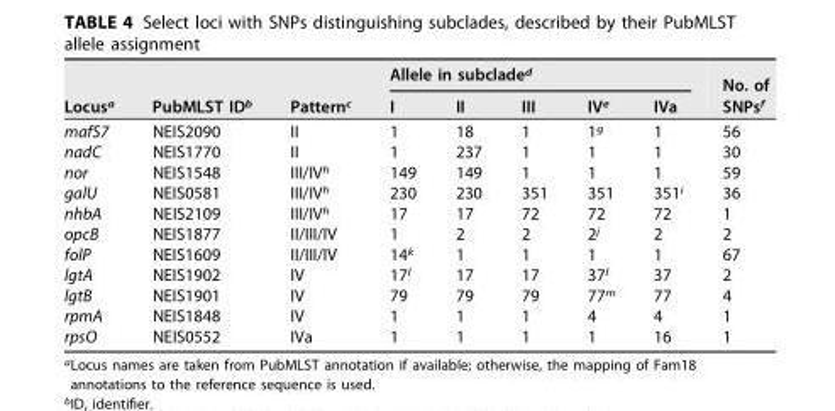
<table><thead><tr><td rowspan="2">Locus<sup>a</sup></td><td rowspan="2">PubMLST ID<sup>b</sup></td><td rowspan="2">Pattern<sup>c</sup></td><td colspan="5">Allele in subclade<sup>d</sup></td><td rowspan="2">No. of SNPs<sup>f</sup></td></tr><tr><td>I</td><td>II</td><td>III</td><td>IV<sup>e</sup></td><td>IVa</td></tr></thead><tbody><tr><td>mafS7</td><td>NEIS2090</td><td>II</td><td>1</td><td>18</td><td>1</td><td>1<sup>g</sup></td><td>1</td><td>56</td></tr><tr><td>nadC</td><td>NEIS1770</td><td>II</td><td>1</td><td>237</td><td>1</td><td>1</td><td>1</td><td>30</td></tr><tr><td>nor</td><td>NEIS1548</td><td>III/IV<sup>h</sup></td><td>149</td><td>149</td><td>1</td><td>1</td><td>1</td><td>59</td></tr><tr><td>galU</td><td>NEIS0581</td><td>III/IV<sup>h</sup></td><td>230</td><td>230</td><td>351</td><td>351</td><td>351<sup>i</sup></td><td>36</td></tr><tr><td>nhbA</td><td>NEIS2109</td><td>III/IV<sup>h</sup></td><td>17</td><td>17</td><td>72</td><td>72</td><td>72</td><td>1</td></tr><tr><td>opcB</td><td>NEIS1877</td><td>II/III/IV</td><td>1</td><td>2</td><td>2</td><td>2<sup>j</sup></td><td>2</td><td>2</td></tr><tr><td>folP</td><td>NEIS1609</td><td>II/III/IV</td><td>14<sup>k</sup></td><td>1</td><td>1</td><td>1</td><td>1</td><td>67</td></tr><tr><td>lgtA</td><td>NEIS1902</td><td>IV</td><td>17<sup>l</sup></td><td>17</td><td>17</td><td>37<sup>l</sup></td><td>37</td><td>2</td></tr><tr><td>lgtB</td><td>NEIS1901</td><td>IV</td><td>79</td><td>79</td><td>79</td><td>77<sup>m</sup></td><td>77</td><td>4</td></tr><tr><td>rpmA</td><td>NEIS1848</td><td>IV</td><td>1</td><td>1</td><td>1</td><td>4</td><td>4</td><td>1</td></tr><tr><td>rpsO</td><td>NEIS0552</td><td>IVa</td><td>1</td><td>1</td><td>1</td><td>1</td><td>16</td><td>1</td></tr></tbody></table>